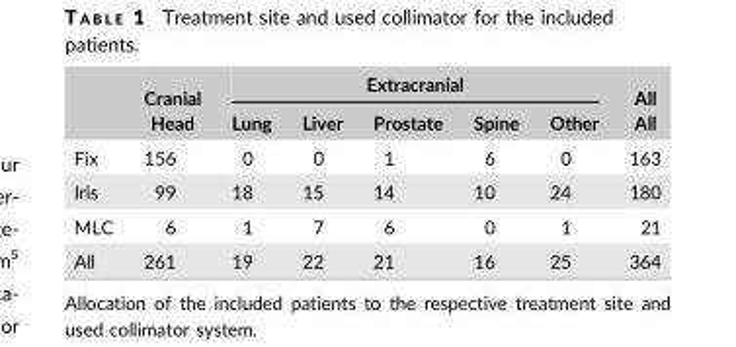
<table><thead><tr><td rowspan="2"></td><td rowspan="2">Cranial Head</td><td colspan="5">Extracranial</td><td rowspan="2">All All</td></tr><tr><td>Lung</td><td>Liver</td><td>Prostate</td><td>Spine</td><td>Other</td></tr></thead><tbody><tr><td>Fix</td><td>156</td><td>0</td><td>0</td><td>1</td><td>6</td><td>0</td><td>163</td></tr><tr><td>Iris</td><td>99</td><td>18</td><td>15</td><td>14</td><td>10</td><td>24</td><td>180</td></tr><tr><td>MLC</td><td>6</td><td>1</td><td>7</td><td>6</td><td>0</td><td>1</td><td>21</td></tr><tr><td>All</td><td>261</td><td>19</td><td>22</td><td>21</td><td>16</td><td>25</td><td>364</td></tr></tbody></table>